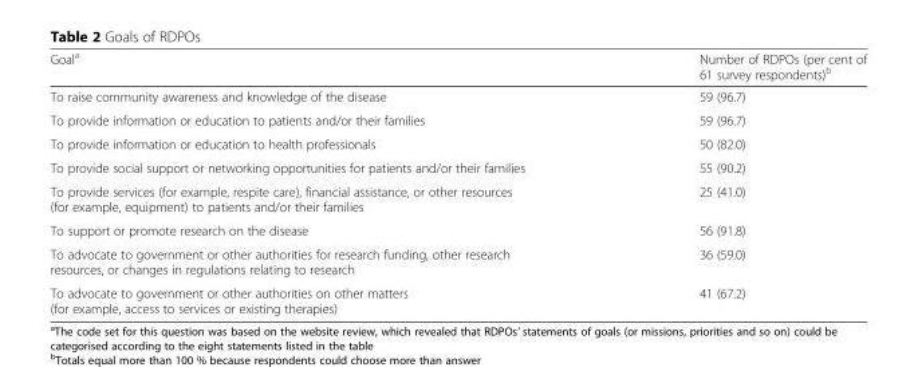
<table><thead><tr><td>Goal<sup>a</sup></td><td>Number of RDPOs (per cent of 61 survey respondents)<sup>b</sup></td></tr></thead><tbody><tr><td>To raise community awareness and knowledge of the disease</td><td>59 (96.7)</td></tr><tr><td>To provide information or education to patients and/or their families</td><td>59 (96.7)</td></tr><tr><td>To provide information or education to health professionals</td><td>50 (82.0)</td></tr><tr><td>To provide social support or networking opportunities for patients and/or their families</td><td>55 (90.2)</td></tr><tr><td>To provide services (for example, respite care), financial assistance, or other resources (for example, equipment) to patients and/or their families</td><td>25 (41.0)</td></tr><tr><td>To support or promote research on the disease</td><td>56 (91.8)</td></tr><tr><td>To advocate to government or other authorities for research funding, other research resources, or changes in regulations relating to research</td><td>36 (59.0)</td></tr><tr><td>To advocate to government or other authorities on other matters (for example, access to services or existing therapies)</td><td>41 (67.2)</td></tr></tbody></table>